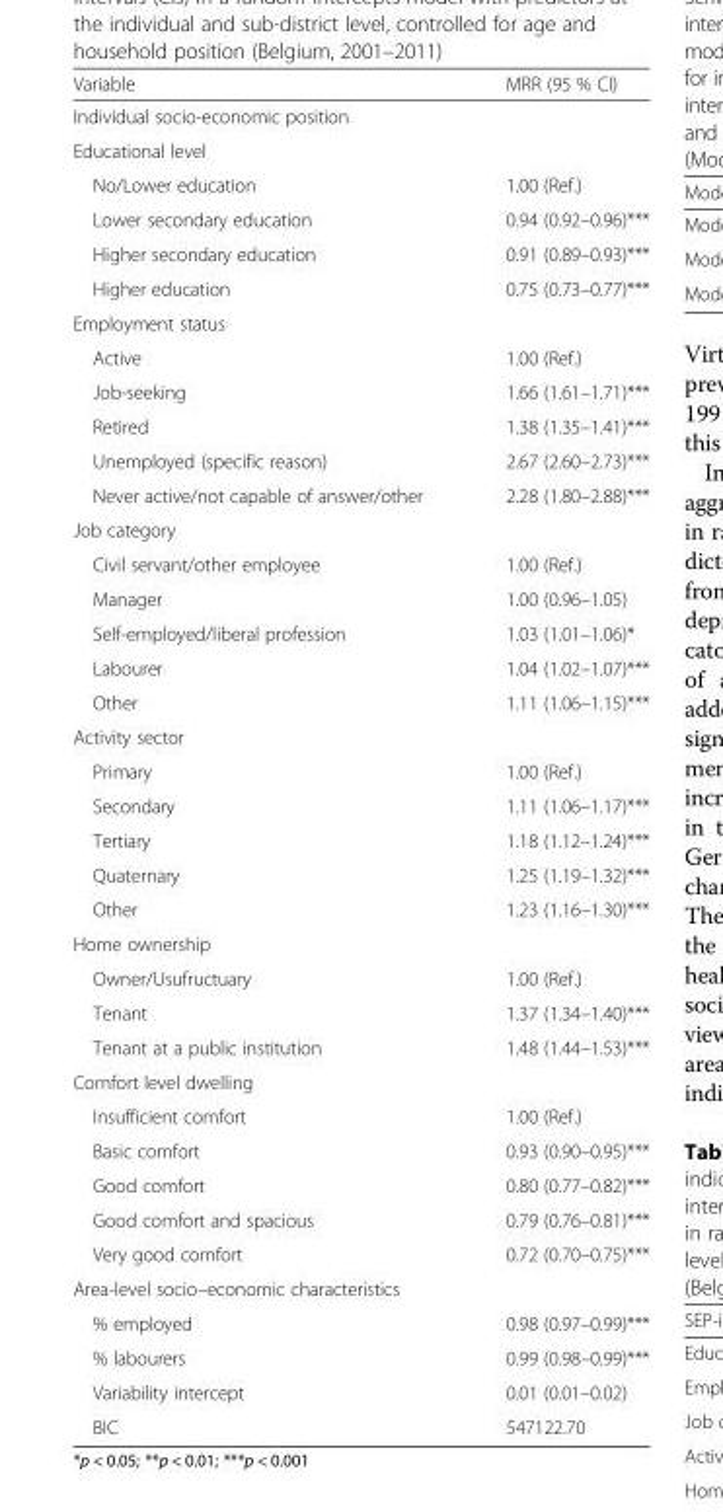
<table><thead><tr><td>Variable</td><td>MRR (95 % CI)</td></tr></thead><tbody><tr><td colspan="2">Individual socio-economic position</td></tr><tr><td colspan="2">Educational level</td></tr><tr><td>No/Lower education</td><td>1.00 (Ref.)</td></tr><tr><td>Lower secondary education</td><td>0.94 (0.92–0.96)***</td></tr><tr><td>Higher secondary education</td><td>0.91 (0.89–0.93)***</td></tr><tr><td>Higher education</td><td>0.75 (0.73–0.77)***</td></tr><tr><td colspan="2">Employment status</td></tr><tr><td>Active</td><td>1.00 (Ref.)</td></tr><tr><td>Job-seeking</td><td>1.66 (1.61–1.71)***</td></tr><tr><td>Retired</td><td>1.38 (1.35–1.41)***</td></tr><tr><td>Unemployed (specific reason)</td><td>2.67 (2.60–2.73)***</td></tr><tr><td>Never active/not capable of answer/other</td><td>2.28 (1.80–2.88)***</td></tr><tr><td colspan="2">Job category</td></tr><tr><td>Civil servant/other employee</td><td>1.00 (Ref.)</td></tr><tr><td>Manager</td><td>1.00 (0.96–1.05)</td></tr><tr><td>Self-employed/liberal profession</td><td>1.03 (1.01–1.06)*</td></tr><tr><td>Labourer</td><td>1.04 (1.02–1.07)***</td></tr><tr><td>Other</td><td>1.11 (1.06–1.15)***</td></tr><tr><td colspan="2">Activity sector</td></tr><tr><td>Primary</td><td>1.00 (Ref.)</td></tr><tr><td>Secondary</td><td>1.11 (1.06–1.17)***</td></tr><tr><td>Tertiary</td><td>1.18 (1.12–1.24)***</td></tr><tr><td>Quaternary</td><td>1.25 (1.19–1.32)***</td></tr><tr><td>Other</td><td>1.23 (1.16–1.30)***</td></tr><tr><td colspan="2">Home ownership</td></tr><tr><td>Owner/Usufructuary</td><td>1.00 (Ref.)</td></tr><tr><td>Tenant</td><td>1.37 (1.34–1.40)***</td></tr><tr><td>Tenant at a public institution</td><td>1.48 (1.44–1.53)***</td></tr><tr><td colspan="2">Comfort level dwelling</td></tr><tr><td>Insufficient comfort</td><td>1.00 (Ref.)</td></tr><tr><td>Basic comfort</td><td>0.93 (0.90–0.95)***</td></tr><tr><td>Good comfort</td><td>0.80 (0.77–0.82)***</td></tr><tr><td>Good comfort and spacious</td><td>0.79 (0.76–0.81)***</td></tr><tr><td>Very good comfort</td><td>0.72 (0.70–0.75)***</td></tr><tr><td colspan="2">Area-level socio–economic characteristics</td></tr><tr><td>% employed</td><td>0.98 (0.97–0.99)***</td></tr><tr><td>% labourers</td><td>0.99 (0.98–0.99)***</td></tr><tr><td>Variability intercept</td><td>0.01 (0.01–0.02)</td></tr><tr><td>BIC</td><td>547122.70</td></tr></tbody></table>